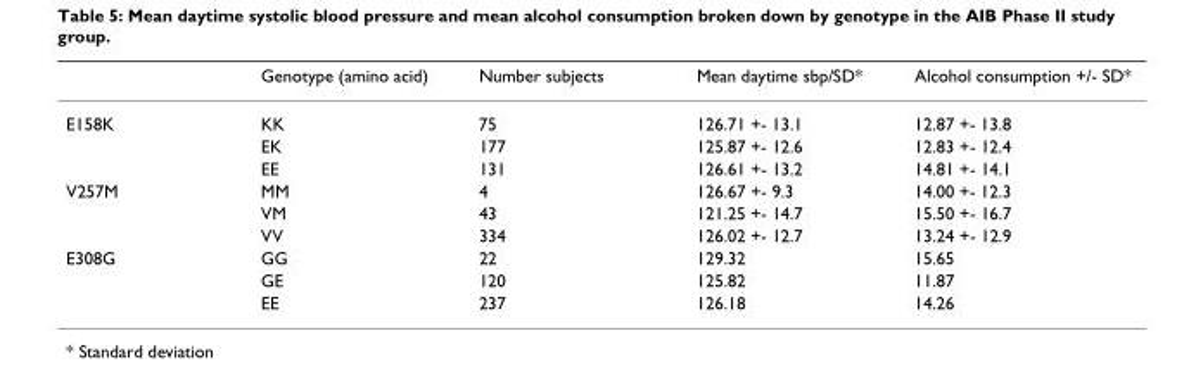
<table><thead><tr><td></td><td>Genotype (amino acid)</td><td>Number subjects</td><td>Mean daytime sbp/SD*</td><td>Alcohol consumption +/- SD*</td></tr></thead><tbody><tr><td rowspan="3">E158K</td><td>KK</td><td>75</td><td>126.71 +- 13.1</td><td>12.87 +- 13.8</td></tr><tr><td>EK</td><td>177</td><td>125.87 +- 12.6</td><td>12.83 +- 12.4</td></tr><tr><td>EE</td><td>131</td><td>126.61 +- 13.2</td><td>14.81 +- 14.1</td></tr><tr><td rowspan="3">V257M</td><td>MM</td><td>4</td><td>126.67 +- 9.3</td><td>14.00 +- 12.3</td></tr><tr><td>VM</td><td>43</td><td>121.25 +- 14.7</td><td>15.50 +- 16.7</td></tr><tr><td>VV</td><td>334</td><td>126.02 +- 12.7</td><td>13.24 +- 12.9</td></tr><tr><td rowspan="3">E308G</td><td>GG</td><td>22</td><td>129.32</td><td>15.65</td></tr><tr><td>GE</td><td>120</td><td>125.82</td><td>11.87</td></tr><tr><td>EE</td><td>237</td><td>126.18</td><td>14.26</td></tr></tbody></table>